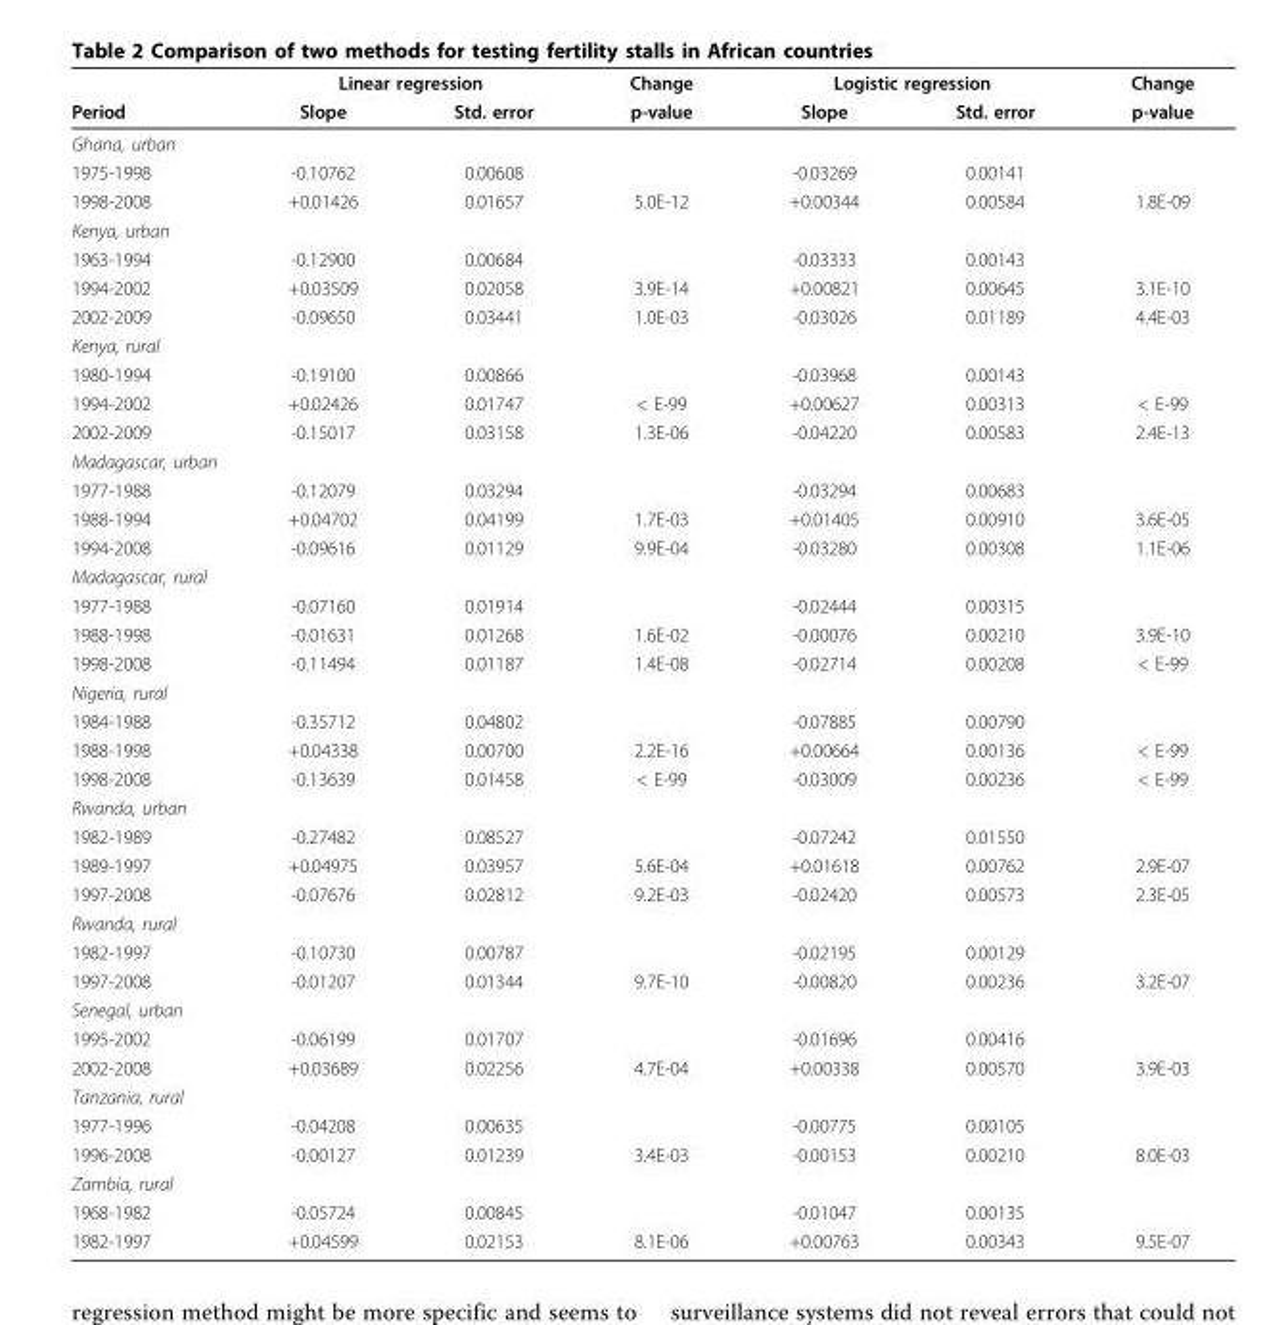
<table><thead><tr><td rowspan="2">Period</td><td colspan="2">Linear regression</td><td rowspan="2">Change p-value</td><td colspan="2">Logistic regression</td><td rowspan="2">Change p-value</td></tr><tr><td>Slope</td><td>Std. error</td><td>Slope</td><td>Std. error</td></tr></thead><tbody><tr><td colspan="7">Ghana, urban</td></tr><tr><td>1975-1998</td><td>-0.10762</td><td>0.00608</td><td></td><td>-0.03269</td><td>0.00141</td><td></td></tr><tr><td>1998-2008</td><td>+0.01426</td><td>0.01657</td><td>5.0E-12</td><td>+0.00344</td><td>0.00584</td><td>1.8E-09</td></tr><tr><td colspan="7">Kenya, urban</td></tr><tr><td>1963-1994</td><td>-0.12900</td><td>0.00684</td><td></td><td>-0.03333</td><td>0.00143</td><td></td></tr><tr><td>1994-2002</td><td>+0.03509</td><td>0.02058</td><td>3.9E-14</td><td>+0.00821</td><td>0.00645</td><td>3.1E-10</td></tr><tr><td>2002-2009</td><td>-0.09650</td><td>0.03441</td><td>1.0E-03</td><td>-0.03026</td><td>0.01189</td><td>4.4E-03</td></tr><tr><td colspan="7">Kenya, rural</td></tr><tr><td>1980-1994</td><td>-0.19100</td><td>0.00866</td><td></td><td>-0.03968</td><td>0.00143</td><td></td></tr><tr><td>1994-2002</td><td>+0.02426</td><td>0.01747</td><td>&lt; E-99</td><td>+0.00627</td><td>0.00313</td><td>&lt; E-99</td></tr><tr><td>2002-2009</td><td>-0.15017</td><td>0.03158</td><td>1.3E-06</td><td>-0.04220</td><td>0.00583</td><td>2.4E-13</td></tr><tr><td colspan="7">Madagascar, urban</td></tr><tr><td>1977-1988</td><td>-0.12079</td><td>0.03294</td><td></td><td>-0.03294</td><td>0.00683</td><td></td></tr><tr><td>1988-1994</td><td>+0.04702</td><td>0.04199</td><td>1.7E-03</td><td>+0.01405</td><td>0.00910</td><td>3.6E-05</td></tr><tr><td>1994-2008</td><td>-0.09616</td><td>0.01129</td><td>9.9E-04</td><td>-0.03280</td><td>0.00308</td><td>1.1E-06</td></tr><tr><td colspan="7">Madagascar, rural</td></tr><tr><td>1977-1988</td><td>-0.07160</td><td>0.01914</td><td></td><td>-0.02444</td><td>0.00315</td><td></td></tr><tr><td>1988-1998</td><td>-0.01631</td><td>0.01268</td><td>1.6E-02</td><td>-0.00076</td><td>0.00210</td><td>3.9E-10</td></tr><tr><td>1998-2008</td><td>-0.11494</td><td>0.01187</td><td>1.4E-08</td><td>-0.02714</td><td>0.00208</td><td>&lt; E-99</td></tr><tr><td colspan="7">Nigeria, rural</td></tr><tr><td>1984-1988</td><td>-0.35712</td><td>0.04802</td><td></td><td>-0.07885</td><td>0.00790</td><td></td></tr><tr><td>1988-1998</td><td>+0.04338</td><td>0.00700</td><td>2.2E-16</td><td>+0.00664</td><td>0.00136</td><td>&lt; E-99</td></tr><tr><td>1998-2008</td><td>-0.13639</td><td>0.01458</td><td>&lt; E-99</td><td>-0.03009</td><td>0.00236</td><td>&lt; E-99</td></tr><tr><td colspan="7">Rwanda, urban</td></tr><tr><td>1982-1989</td><td>-0.27482</td><td>0.08527</td><td></td><td>-0.07242</td><td>0.01550</td><td></td></tr><tr><td>1989-1997</td><td>+0.04975</td><td>0.03957</td><td>5.6E-04</td><td>+0.01618</td><td>0.00762</td><td>2.9E-07</td></tr><tr><td>1997-2008</td><td>-0.07676</td><td>0.02812</td><td>9.2E-03</td><td>-0.02420</td><td>0.00573</td><td>2.3E-05</td></tr><tr><td colspan="7">Rwanda, rural</td></tr><tr><td>1982-1997</td><td>-0.10730</td><td>0.00787</td><td></td><td>-0.02195</td><td>0.00129</td><td></td></tr><tr><td>1997-2008</td><td>-0.01207</td><td>0.01344</td><td>9.7E-10</td><td>-0.00820</td><td>0.00236</td><td>3.2E-07</td></tr><tr><td colspan="7">Senegal, urban</td></tr><tr><td>1995-2002</td><td>-0.06199</td><td>0.01707</td><td></td><td>-0.01696</td><td>0.00416</td><td></td></tr><tr><td>2002-2008</td><td>+0.03689</td><td>0.02256</td><td>4.7E-04</td><td>+0.00338</td><td>0.00570</td><td>3.9E-03</td></tr><tr><td colspan="7">Tanzania, rural</td></tr><tr><td>1977-1996</td><td>-0.04208</td><td>0.00635</td><td></td><td>-0.00775</td><td>0.00105</td><td></td></tr><tr><td>1996-2008</td><td>-0.00127</td><td>0.01239</td><td>3.4E-03</td><td>-0.00153</td><td>0.00210</td><td>8.0E-03</td></tr><tr><td colspan="7">Zambia, rural</td></tr><tr><td>1968-1982</td><td>-0.05724</td><td>0.00845</td><td></td><td>-0.01047</td><td>0.00135</td><td></td></tr><tr><td>1982-1997</td><td>+0.04599</td><td>0.02153</td><td>8.1E-06</td><td>+0.00763</td><td>0.00343</td><td>9.5E-07</td></tr></tbody></table>